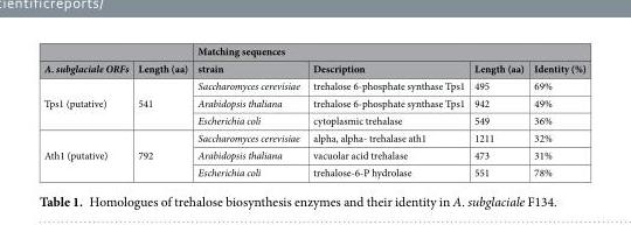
<table><thead><tr><td rowspan="2">A. subglaciale ORFs</td><td rowspan="2">Length (aa)</td><td colspan="4">Matching sequences</td></tr><tr><td>strain</td><td>Description</td><td>Length (aa)</td><td>Identity (%)</td></tr></thead><tbody><tr><td rowspan="3">Tps1 (putative)</td><td rowspan="3">541</td><td>Saccharomyces cerevisiae</td><td>trehalose 6-phosphate synthase Tps1</td><td>495</td><td>69%</td></tr><tr><td>Arabidopsis thaliana</td><td>trehalose 6-phosphate synthase Tps1</td><td>942</td><td>49%</td></tr><tr><td>Escherichia coli</td><td>cytoplasmic trehalase</td><td>549</td><td>36%</td></tr><tr><td rowspan="3">Ath1 (putative)</td><td rowspan="3">792</td><td>Saccharomyces cerevisiae</td><td>alpha, alpha- trehalase ath1</td><td>1211</td><td>32%</td></tr><tr><td>Arabidopsis thaliana</td><td>vacuolar acid trehalase</td><td>473</td><td>31%</td></tr><tr><td>Escherichia coli</td><td>trehalose-6-P hydrolase</td><td>551</td><td>78%</td></tr></tbody></table>